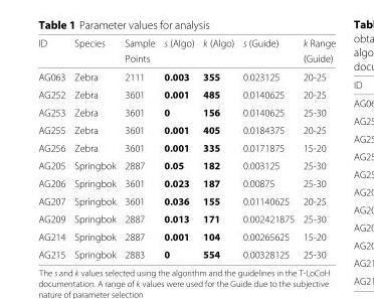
<table><thead><tr><td rowspan="2">ID</td><td rowspan="2">Species</td><td rowspan="2">Sample Points</td><td rowspan="2">s (Algo)</td><td rowspan="2">k (Algo)</td><td rowspan="2">s (Guide)</td><td rowspan="2">k Range (Guide)</td></tr><tr></tr></thead><tbody><tr><td>AG063</td><td>Zebra</td><td>2111</td><td>0.003</td><td>355</td><td>0.023125</td><td>20-25</td></tr><tr><td>AG252</td><td>Zebra</td><td>3601</td><td>0.001</td><td>485</td><td>0.0140625</td><td>20-25</td></tr><tr><td>AG253</td><td>Zebra</td><td>3601</td><td>0</td><td>156</td><td>0.0140625</td><td>25-30</td></tr><tr><td>AG255</td><td>Zebra</td><td>3601</td><td>0.001</td><td>405</td><td>0.0184375</td><td>20-25</td></tr><tr><td>AG256</td><td>Zebra</td><td>3601</td><td>0.001</td><td>335</td><td>0.0171875</td><td>15-20</td></tr><tr><td>AG205</td><td>Springbok</td><td>2887</td><td>0.05</td><td>182</td><td>0.003125</td><td>25-30</td></tr><tr><td>AG206</td><td>Springbok</td><td>3601</td><td>0.023</td><td>187</td><td>0.00875</td><td>25-30</td></tr><tr><td>AG207</td><td>Springbok</td><td>3601</td><td>0.036</td><td>155</td><td>0.01140625</td><td>20-25</td></tr><tr><td>AG209</td><td>Springbok</td><td>2887</td><td>0.013</td><td>171</td><td>0.002421875</td><td>25-30</td></tr><tr><td>AG214</td><td>Springbok</td><td>2887</td><td>0.001</td><td>104</td><td>0.00265625</td><td>15-20</td></tr><tr><td>AG215</td><td>Springbok</td><td>2883</td><td>0</td><td>554</td><td>0.00328125</td><td>25-30</td></tr></tbody></table>